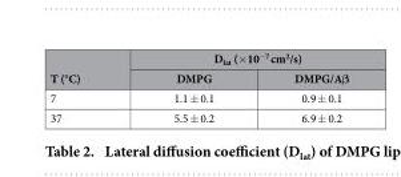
<table><thead><tr><td rowspan="2">T (°C)</td><td colspan="2">D<sub>lat</sub> (× 10<sup>−7</sup> cm<sup>2</sup>/s)</td></tr><tr><td>DMPG</td><td>DMPG/Aβ</td></tr></thead><tbody><tr><td>7</td><td>1.1 ± 0.1</td><td>0.9 ± 0.1</td></tr><tr><td>37</td><td>5.5 ± 0.2</td><td>6.9 ± 0.2</td></tr></tbody></table>